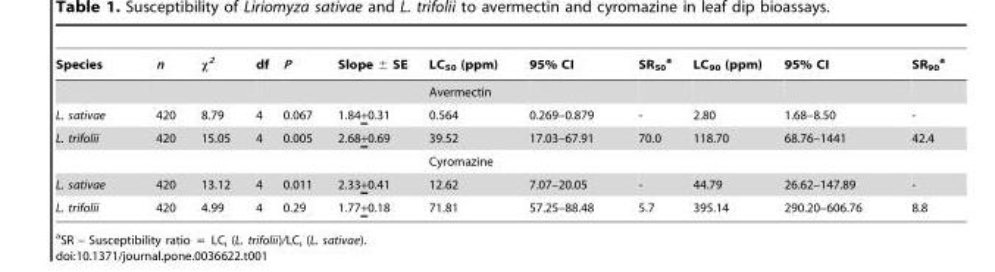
<table><thead><tr><td>Species</td><td>n</td><td>χ<sup>2</sup></td><td>df</td><td>P</td><td>Slope ± SE</td><td>LC<sub>50</sub> (ppm)</td><td>95% CI</td><td>SR<sub>50</sub> a</td><td>LC<sub>90</sub> (ppm)</td><td>95% CI</td><td>SR90</td></tr></thead><tbody><tr><td></td><td></td><td></td><td></td><td></td><td></td><td>Avermectin</td><td></td><td></td><td></td><td></td><td></td></tr><tr><td>L. sativae</td><td>420</td><td>8.79</td><td>4</td><td>0.067</td><td>1.84+0.31</td><td>0.564</td><td>0.269–0.879</td><td>-</td><td>2.80</td><td>1.68–8.50</td><td>-</td></tr><tr><td rowspan="2">L. trifolii</td><td>420</td><td>15.05</td><td>4</td><td>0.005</td><td>2.68+0.69</td><td>39.52</td><td>17.03–67.91</td><td>70.0</td><td>118.70</td><td>68.76–1441</td><td>42.4</td></tr><tr><td></td><td></td><td></td><td></td><td></td><td>Cyromazine</td><td></td><td></td><td></td><td></td><td></td></tr><tr><td>L. sativae</td><td>420</td><td>13.12</td><td>4</td><td>0.011</td><td>2.33+0.41</td><td>12.62</td><td>7.07–20.05</td><td>-</td><td>44.79</td><td>26.62–147.89</td><td>-</td></tr><tr><td>L. trifolii</td><td>420</td><td>4.99</td><td>4</td><td>0.29</td><td>1.77+0.18</td><td>71.81</td><td>57.25–88.48</td><td>5.7</td><td>395.14</td><td>290.20–606.76</td><td>8.8</td></tr></tbody></table>